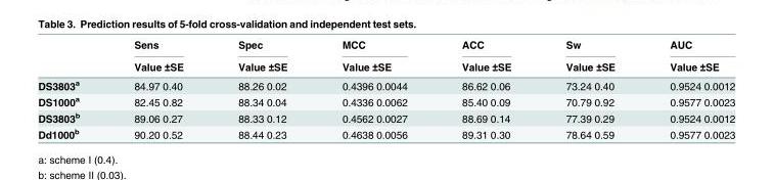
<table><thead><tr><td rowspan="2"></td><td rowspan="2">Sens Value ±SE</td><td rowspan="2">Spec Value ±SE</td><td rowspan="2">MCC Value ±SE</td><td rowspan="2">ACC Value ±SE</td><td rowspan="2">Sw Value ±SE</td><td rowspan="2">AUC Value ±SE</td></tr><tr></tr></thead><tbody><tr><td>DS3803<sup>a</sup></td><td>84.97 0.40</td><td>88.26 0.02</td><td>0.4396 0.0044</td><td>86.62 0.06</td><td>73.24 0.40</td><td>0.9524 0.0012</td></tr><tr><td>DS1000<sup>a</sup></td><td>82.45 0.82</td><td>88.34 0.04</td><td>0.4336 0.0062</td><td>85.40 0.09</td><td>70.79 0.92</td><td>0.9577 0.0023</td></tr><tr><td>DS3803<sup>b</sup></td><td>89.06 0.27</td><td>88.33 0.12</td><td>0.4562 0.0027</td><td>88.69 0.14</td><td>77.39 0.29</td><td>0.9524 0.0012</td></tr><tr><td>Dd1000<sup>b</sup></td><td>90.20 0.52</td><td>88.44 0.23</td><td>0.4638 0.0056</td><td>89.31 0.30</td><td>78.64 0.59</td><td>0.9577 0.0023</td></tr></tbody></table>